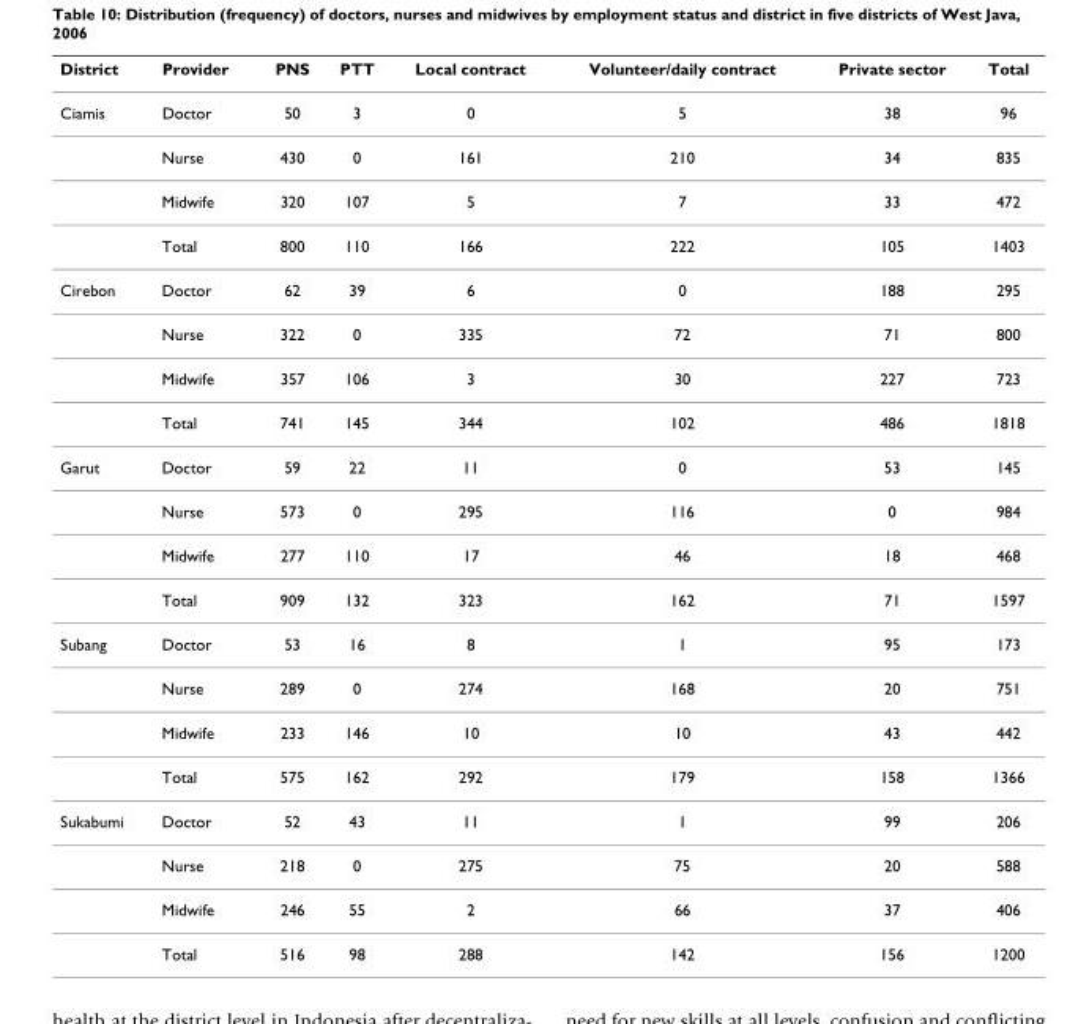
<table><thead><tr><td>District</td><td>Provider</td><td>PNS</td><td>PTT</td><td>Local contract</td><td>Volunteer/daily contract</td><td>Private sector</td><td>Total</td></tr></thead><tbody><tr><td rowspan="4">Ciamis</td><td>Doctor</td><td>50</td><td>3</td><td>0</td><td>5</td><td>38</td><td>96</td></tr><tr><td>Nurse</td><td>430</td><td>0</td><td>161</td><td>210</td><td>34</td><td>835</td></tr><tr><td>Midwife</td><td>320</td><td>107</td><td>5</td><td>7</td><td>33</td><td>472</td></tr><tr><td>Total</td><td>800</td><td>110</td><td>166</td><td>222</td><td>105</td><td>1403</td></tr><tr><td rowspan="4">Cirebon</td><td>Doctor</td><td>62</td><td>39</td><td>6</td><td>0</td><td>188</td><td>295</td></tr><tr><td>Nurse</td><td>322</td><td>0</td><td>335</td><td>72</td><td>71</td><td>800</td></tr><tr><td>Midwife</td><td>357</td><td>106</td><td>3</td><td>30</td><td>227</td><td>723</td></tr><tr><td>Total</td><td>741</td><td>145</td><td>344</td><td>102</td><td>486</td><td>1818</td></tr><tr><td rowspan="4">Garut</td><td>Doctor</td><td>59</td><td>22</td><td>11</td><td>0</td><td>53</td><td>145</td></tr><tr><td>Nurse</td><td>573</td><td>0</td><td>295</td><td>116</td><td>0</td><td>984</td></tr><tr><td>Midwife</td><td>277</td><td>110</td><td>17</td><td>46</td><td>18</td><td>468</td></tr><tr><td>Total</td><td>909</td><td>132</td><td>323</td><td>162</td><td>71</td><td>1597</td></tr><tr><td rowspan="4">Subang</td><td>Doctor</td><td>53</td><td>16</td><td>8</td><td>1</td><td>95</td><td>173</td></tr><tr><td>Nurse</td><td>289</td><td>0</td><td>274</td><td>168</td><td>20</td><td>751</td></tr><tr><td>Midwife</td><td>233</td><td>146</td><td>10</td><td>10</td><td>43</td><td>442</td></tr><tr><td>Total</td><td>575</td><td>162</td><td>292</td><td>179</td><td>158</td><td>1366</td></tr><tr><td rowspan="4">Sukabumi</td><td>Doctor</td><td>52</td><td>43</td><td>11</td><td>1</td><td>99</td><td>206</td></tr><tr><td>Nurse</td><td>218</td><td>0</td><td>275</td><td>75</td><td>20</td><td>588</td></tr><tr><td>Midwife</td><td>246</td><td>55</td><td>2</td><td>66</td><td>37</td><td>406</td></tr><tr><td>Total</td><td>516</td><td>98</td><td>288</td><td>142</td><td>156</td><td>1200</td></tr></tbody></table>